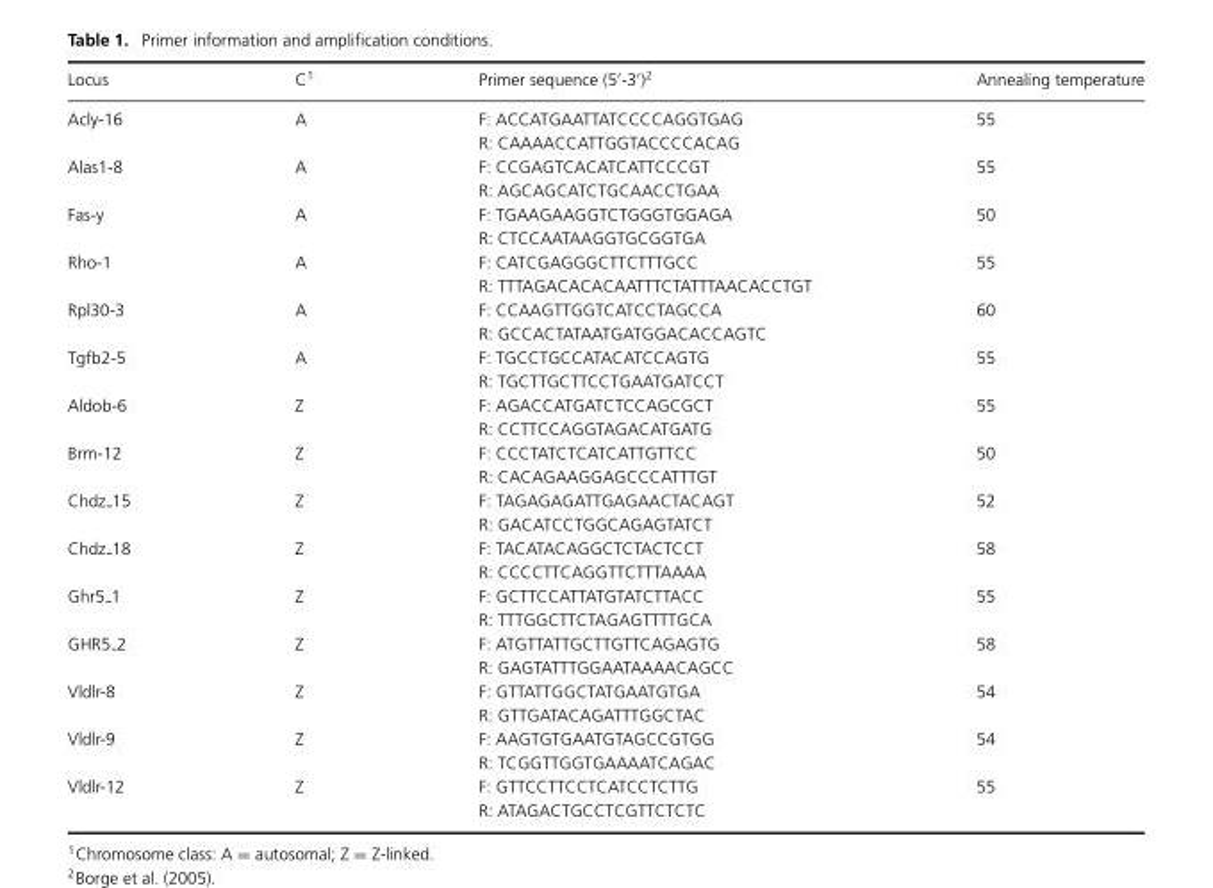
<table><thead><tr><td>Locus</td><td>C<sup>1</sup></td><td>Primer sequence (5′-3′)<sup>2</sup></td><td>Annealing temperature</td></tr></thead><tbody><tr><td rowspan="2">Acly-16</td><td>A</td><td>F: ACCATGAATTATCCCCAGGTGAG</td><td>55</td></tr><tr><td></td><td>R: CAAAACCATTGGTACCCCACAG</td><td></td></tr><tr><td rowspan="2">Alas1-8</td><td>A</td><td>F: CCGAGTCACATCATTCCCGT</td><td>55</td></tr><tr><td></td><td>R: AGCAGCATCTGCAACCTGAA</td><td></td></tr><tr><td rowspan="2">Fas-y</td><td>A</td><td>F: TGAAGAAGGTCTGGGTGGAGA</td><td>50</td></tr><tr><td></td><td>R: CTCCAATAAGGTGCGGTGA</td><td></td></tr><tr><td rowspan="2">Rho-1</td><td>A</td><td>F: CATCGAGGGCTTCTTTGCC</td><td>55</td></tr><tr><td></td><td>R: TTTAGACACACAATTTCTATTTAACACCTGT</td><td></td></tr><tr><td rowspan="2">Rpl30-3</td><td>A</td><td>F: CCAAGTTGGTCATCCTAGCCA</td><td>60</td></tr><tr><td></td><td>R: GCCACTATAATGATGGACACCAGTC</td><td></td></tr><tr><td rowspan="2">Tgfb2-5</td><td>A</td><td>F: TGCCTGCCATACATCCAGTG</td><td>55</td></tr><tr><td></td><td>R: TGCTTGCTTCCTGAATGATCCT</td><td></td></tr><tr><td rowspan="2">Aldob-6</td><td>Z</td><td>F: AGACCATGATCTCCAGCGCT</td><td>55</td></tr><tr><td></td><td>R: CCTTCCAGGTAGACATGATG</td><td></td></tr><tr><td rowspan="2">Brm-12</td><td>Z</td><td>F: CCCTATCTCATCATTGTTCC</td><td>50</td></tr><tr><td></td><td>R: CACAGAAGGAGCCCATTTGT</td><td></td></tr><tr><td rowspan="2">Chdz 15</td><td>Z</td><td>F: TAGAGAGATTGAGAACTACAGT</td><td>52</td></tr><tr><td></td><td>R: GACATCCTGGCAGAGTATCT</td><td></td></tr><tr><td rowspan="2">Chdz 18</td><td>Z</td><td>F: TACATACAGGCTCTACTCCT</td><td>58</td></tr><tr><td></td><td>R: CCCCTTCAGGTTCTTTAAAA</td><td></td></tr><tr><td rowspan="2">Ghr5 1</td><td>Z</td><td>F: GCTTCCATTATGTATCTTACC</td><td>55</td></tr><tr><td></td><td>R: TTTGGCTTCTAGAGTTTTGCA</td><td></td></tr><tr><td rowspan="2">GHR5 2</td><td>Z</td><td>F: ATGTTATTGCTTGTTCAGAGTG</td><td>58</td></tr><tr><td></td><td>R: GAGTATTTGGAATAAAACAGCC</td><td></td></tr><tr><td rowspan="2">Vldlr-8</td><td>Z</td><td>F: GTTATTGGCTATGAATGTGA</td><td>54</td></tr><tr><td></td><td>R: GTTGATACAGATTTGGCTAC</td><td></td></tr><tr><td rowspan="2">Vldlr-9</td><td>Z</td><td>F: AAGTGTGAATGTAGCCGTGG</td><td>54</td></tr><tr><td></td><td>R: TCGGTTGGTGAAAATCAGAC</td><td></td></tr><tr><td rowspan="2">Vldlr-12</td><td>Z</td><td>F: GTTCCTTCCTCATCCTCTTG</td><td>55</td></tr><tr><td></td><td>R: ATAGACTGCCTCGTTCTCTC</td><td></td></tr></tbody></table>